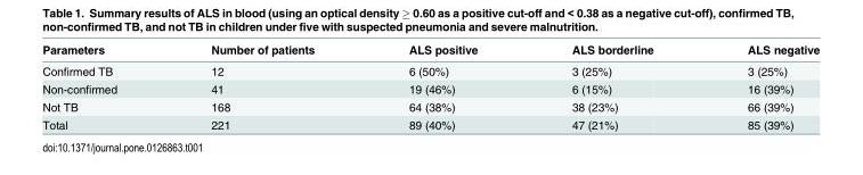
<table><thead><tr><td>Parameters</td><td>Number of patients</td><td>ALS positive</td><td>ALS borderline</td><td>ALS negative</td></tr></thead><tbody><tr><td>Confirmed TB</td><td>12</td><td>6 (50%)</td><td>3 (25%)</td><td>3 (25%)</td></tr><tr><td>Non-confirmed</td><td>41</td><td>19 (46%)</td><td>6 (15%)</td><td>16 (39%)</td></tr><tr><td>Not TB</td><td>168</td><td>64 (38%)</td><td>38 (23%)</td><td>66 (39%)</td></tr><tr><td>Total</td><td>221</td><td>89 (40%)</td><td>47 (21%)</td><td>85 (39%)</td></tr></tbody></table>